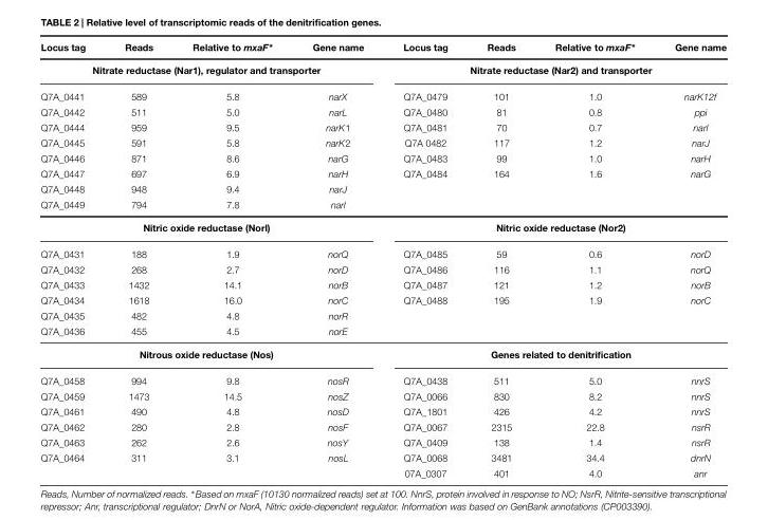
<table><thead><tr><td>Locus tag</td><td>Reads</td><td>Relative to mxaF∗</td><td>Gene name</td><td>Locus tag</td><td>Reads</td><td>Relative to mxaF∗</td><td>Gene name</td></tr></thead><tbody><tr><td colspan="4">Nitrate reductase (Nar1), regulator and transporter</td><td colspan="4">Nitrate reductase (Nar2) and transporter</td></tr><tr><td>Q7A_0441</td><td>589</td><td>5.8</td><td>narX</td><td>Q7A_0479</td><td>101</td><td>1.0</td><td>narK12f</td></tr><tr><td>Q7A_0442</td><td>511</td><td>5.0</td><td>narL</td><td>Q7A_0480</td><td>81</td><td>0.8</td><td>ppi</td></tr><tr><td>Q7A_0444</td><td>959</td><td>9.5</td><td>narK1</td><td>Q7A_0481</td><td>70</td><td>0.7</td><td>narl</td></tr><tr><td>Q7A_0445</td><td>591</td><td>5.8</td><td>narK2</td><td>Q7A 0482</td><td>117</td><td>1.2</td><td>narJ</td></tr><tr><td>Q7A_0446</td><td>871</td><td>8.6</td><td>narG</td><td>Q7A_0483</td><td>99</td><td>1.0</td><td>narH</td></tr><tr><td>Q7A_0447</td><td>697</td><td>6.9</td><td>narH</td><td>Q7A_0484</td><td>164</td><td>1.6</td><td>narG</td></tr><tr><td>Q7A_0448</td><td>948</td><td>9.4</td><td>narJ</td><td></td><td></td><td></td><td></td></tr><tr><td>Q7A_0449</td><td>794</td><td>7.8</td><td>narl</td><td></td><td></td><td></td><td></td></tr><tr><td colspan="4">Nitric oxide reductase (Norl)</td><td colspan="4">Nitric oxide reductase (Nor2)</td></tr><tr><td>Q7A_0431</td><td>188</td><td>1.9</td><td>norQ</td><td>Q7A_0485</td><td>59</td><td>0.6</td><td>norD</td></tr><tr><td>Q7A_0432</td><td>268</td><td>2.7</td><td>norD</td><td>Q7A_0486</td><td>116</td><td>1.1</td><td>norQ</td></tr><tr><td>Q7A_0433</td><td>1432</td><td>14.1</td><td>norB</td><td>Q7A_0487</td><td>121</td><td>1.2</td><td>norB</td></tr><tr><td>Q7A_0434</td><td>1618</td><td>16.0</td><td>norC</td><td>Q7A_0488</td><td>195</td><td>1.9</td><td>norC</td></tr><tr><td>Q7A_0435</td><td>482</td><td>4.8</td><td>norR</td><td></td><td></td><td></td><td></td></tr><tr><td>Q7A_0436</td><td>455</td><td>4.5</td><td>norE</td><td></td><td></td><td></td><td></td></tr><tr><td colspan="4">Nitrous oxide reductase (Nos)</td><td colspan="4">Genes related to denitrification</td></tr><tr><td>Q7A_0458</td><td>994</td><td>9.8</td><td>nosR</td><td>Q7A_0438</td><td>511</td><td>5.0</td><td>nnrS</td></tr><tr><td>Q7A_0459</td><td>1473</td><td>14.5</td><td>nosZ</td><td>Q7A_0066</td><td>830</td><td>8.2</td><td>nnrS</td></tr><tr><td>Q7A_0461</td><td>490</td><td>4.8</td><td>nosD</td><td>Q7A_1801</td><td>426</td><td>4.2</td><td>nnrS</td></tr><tr><td>Q7A_0462</td><td>280</td><td>2.8</td><td>nosF</td><td>Q7A_0067</td><td>2315</td><td>22.8</td><td>nsrR</td></tr><tr><td>Q7A_0463</td><td>262</td><td>2.6</td><td>nosY</td><td>Q7A_0409</td><td>138</td><td>1.4</td><td>nsrR</td></tr><tr><td rowspan="2">Q7A_0464</td><td>311</td><td>3.1</td><td>nosL</td><td>Q7A_0068</td><td>3481</td><td>34.4</td><td>dnrN</td></tr><tr><td></td><td></td><td></td><td>07A_0307</td><td>401</td><td>4.0</td><td>anr</td></tr></tbody></table>